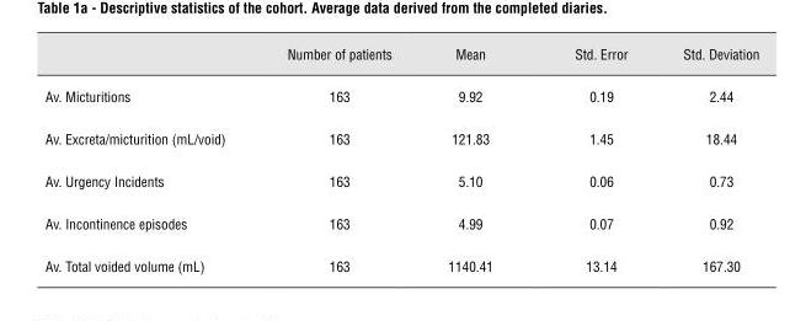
<table><thead><tr><td></td><td>Number of patients</td><td>Mean</td><td>Std. Error</td><td>Std. Deviation</td></tr></thead><tbody><tr><td>Av. Micturitions</td><td>163</td><td>9.92</td><td>0.19</td><td>2.44</td></tr><tr><td>Av. Excreta/micturition (mL/void)</td><td>163</td><td>121.83</td><td>1.45</td><td>18.44</td></tr><tr><td>Av. Urgency Incidents</td><td>163</td><td>5.10</td><td>0.06</td><td>0.73</td></tr><tr><td>Av. Incontinence episodes</td><td>163</td><td>4.99</td><td>0.07</td><td>0.92</td></tr><tr><td>Av. Total voided volume (mL)</td><td>163</td><td>1140.41</td><td>13.14</td><td>167.30</td></tr></tbody></table>